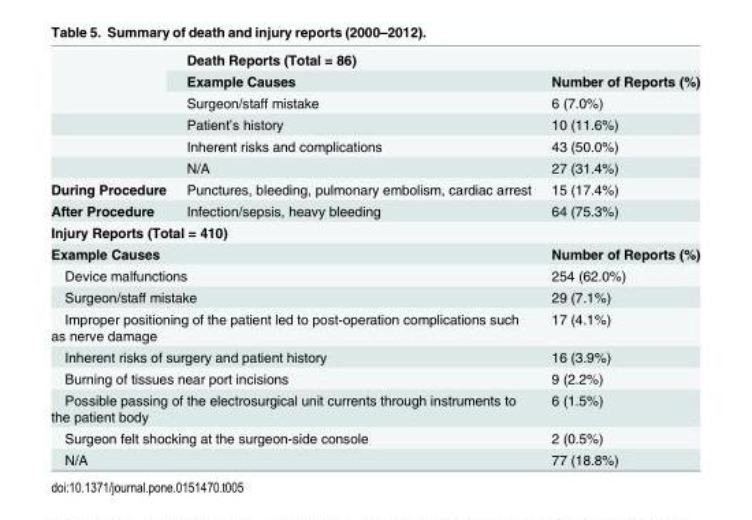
<table><thead><tr><td rowspan="2"></td><td colspan="2">Death Reports (Total = 86)</td></tr><tr><td>Example Causes</td><td>Number of Reports (%)</td></tr></thead><tbody><tr><td></td><td>Surgeon/staff mistake</td><td>6 (7.0%)</td></tr><tr><td></td><td>Patient’s history</td><td>10 (11.6%)</td></tr><tr><td></td><td>Inherent risks and complications</td><td>43 (50.0%)</td></tr><tr><td></td><td>N/A</td><td>27 (31.4%)</td></tr><tr><td>During Procedure</td><td>Punctures, bleeding, pulmonary embolism, cardiac arrest</td><td>15 (17.4%)</td></tr><tr><td>After Procedure</td><td>Infection/sepsis, heavy bleeding</td><td>64 (75.3%)</td></tr><tr><td colspan="3">Injury Reports (Total = 410)</td></tr><tr><td colspan="2">Example Causes</td><td>Number of Reports (%)</td></tr><tr><td colspan="2">Device malfunctions</td><td>254 (62.0%)</td></tr><tr><td colspan="2">Surgeon/staff mistake</td><td>29 (7.1%)</td></tr><tr><td colspan="2">Improper positioning of the patient led to post-operation complications such as nerve damage</td><td>17 (4.1%)</td></tr><tr><td colspan="2">Inherent risks of surgery and patient history</td><td>16 (3.9%)</td></tr><tr><td colspan="2">Burning of tissues near port incisions</td><td>9 (2.2%)</td></tr><tr><td colspan="2">Possible passing of the electrosurgical unit currents through instruments to the patient body</td><td>6 (1.5%)</td></tr><tr><td colspan="2">Surgeon felt shocking at the surgeon-side console</td><td>2 (0.5%)</td></tr><tr><td colspan="2">N/A</td><td>77 (18.8%)</td></tr></tbody></table>